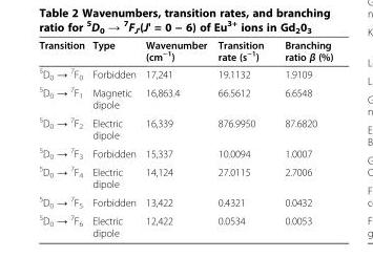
<table><thead><tr><td>Transition</td><td>Type</td><td>Wavenumber (cm<sup>−1</sup>)</td><td>Transition rate (s<sup>−1</sup>)</td><td>Branching ratio β (%)</td></tr></thead><tbody><tr><td><sup>5</sup>D<sub>0</sub> → <sup>7</sup>F<sub>0</sub></td><td>Forbidden</td><td>17,241</td><td>19.1132</td><td>1.9109</td></tr><tr><td><sup>5</sup>D<sub>0</sub> → <sup>7</sup>F<sub>1</sub></td><td>Magnetic dipole</td><td>16,863.4</td><td>66.5612</td><td>6.6548</td></tr><tr><td><sup>5</sup>D<sub>0</sub> → <sup>7</sup>F<sub>2</sub></td><td>Electric dipole</td><td>16,339</td><td>876.9950</td><td>87.6820</td></tr><tr><td><sup>5</sup>D<sub>0</sub> → <sup>7</sup>F<sub>3</sub></td><td>Forbidden</td><td>15,337</td><td>10.0094</td><td>1.0007</td></tr><tr><td><sup>5</sup>D<sub>0</sub> → <sup>7</sup>F<sub>4</sub></td><td>Electric dipole</td><td>14,124</td><td>27.0115</td><td>2.7006</td></tr><tr><td><sup>5</sup>D<sub>0</sub> → <sup>7</sup>F<sub>5</sub></td><td>Forbidden</td><td>13,422</td><td>0.4321</td><td>0.0432</td></tr><tr><td><sup>5</sup>D<sub>0</sub> → <sup>7</sup>F<sub>6</sub></td><td>Electric dipole</td><td>12,422</td><td>0.0534</td><td>0.0053</td></tr></tbody></table>